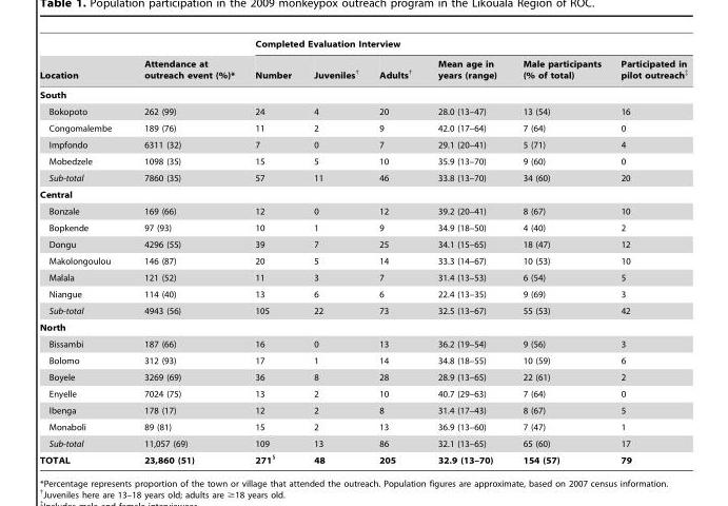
<table><thead><tr><td rowspan="2">Location</td><td rowspan="2">Attendance at outreach event (%)*</td><td colspan="6">Completed Evaluation Interview</td></tr><tr><td>Number</td><td>Juveniles†</td><td>Adults†</td><td>Mean age in years (range)</td><td>Male participants (% of total)</td><td>Participated in pilot outreach‡</td></tr></thead><tbody><tr><td colspan="8">South</td></tr><tr><td>Bokopoto</td><td>262 (99)</td><td>24</td><td>4</td><td>20</td><td>28.0 (13–47)</td><td>13 (54)</td><td>16</td></tr><tr><td>Congomalembe</td><td>189 (76)</td><td>11</td><td>2</td><td>9</td><td>42.0 (17–64)</td><td>7 (64)</td><td>0</td></tr><tr><td>Impfondo</td><td>6311 (32)</td><td>7</td><td>0</td><td>7</td><td>29.1 (20–41)</td><td>5 (71)</td><td>4</td></tr><tr><td>Mobedzele</td><td>1098 (35)</td><td>15</td><td>5</td><td>10</td><td>35.9 (13–70)</td><td>9 (60)</td><td>0</td></tr><tr><td>Sub-total</td><td>7860 (35)</td><td>57</td><td>11</td><td>46</td><td>33.8 (13–70)</td><td>34 (60)</td><td>20</td></tr><tr><td colspan="8">Central</td></tr><tr><td>Bonzale</td><td>169 (66)</td><td>12</td><td>0</td><td>12</td><td>39.2 (20–41)</td><td>8 (67)</td><td>10</td></tr><tr><td>Bopkende</td><td>97 (93)</td><td>10</td><td>1</td><td>9</td><td>34.9 (18–50)</td><td>4 (40)</td><td>2</td></tr><tr><td>Dongu</td><td>4296 (55)</td><td>39</td><td>7</td><td>25</td><td>34.1 (15–65)</td><td>18 (47)</td><td>12</td></tr><tr><td>Makolongoulou</td><td>146 (87)</td><td>20</td><td>5</td><td>14</td><td>33.3 (14–67)</td><td>10 (53)</td><td>10</td></tr><tr><td>Malala</td><td>121 (52)</td><td>11</td><td>3</td><td>7</td><td>31.4 (13–53)</td><td>6 (54)</td><td>5</td></tr><tr><td>Niangue</td><td>114 (40)</td><td>13</td><td>6</td><td>6</td><td>22.4 (13–35)</td><td>9 (69)</td><td>3</td></tr><tr><td>Sub-total</td><td>4943 (56)</td><td>105</td><td>22</td><td>73</td><td>32.5 (13–67)</td><td>55 (53)</td><td>42</td></tr><tr><td colspan="8">North</td></tr><tr><td>Bissambi</td><td>187 (66)</td><td>16</td><td>0</td><td>13</td><td>36.2 (19–54)</td><td>9 (56)</td><td>3</td></tr><tr><td>Bolomo</td><td>312 (93)</td><td>17</td><td>1</td><td>14</td><td>34.8 (18–55)</td><td>10 (59)</td><td>6</td></tr><tr><td>Boyele</td><td>3269 (69)</td><td>36</td><td>8</td><td>28</td><td>28.9 (13–65)</td><td>22 (61)</td><td>2</td></tr><tr><td>Enyelle</td><td>7024 (75)</td><td>13</td><td>2</td><td>10</td><td>40.7 (29–63)</td><td>7 (64)</td><td>0</td></tr><tr><td>Ibenga</td><td>178 (17)</td><td>12</td><td>2</td><td>8</td><td>31.4 (17–43)</td><td>8 (67)</td><td>5</td></tr><tr><td>Monaboli</td><td>89 (81)</td><td>15</td><td>2</td><td>13</td><td>36.9 (13–60)</td><td>7 (47)</td><td>1</td></tr><tr><td>Sub-total</td><td>11,057 (69)</td><td>109</td><td>13</td><td>86</td><td>32.1 (13–65)</td><td>65 (60)</td><td>17</td></tr><tr><td>TOTAL</td><td>23,860 (51)</td><td>271§</td><td>48</td><td>205</td><td>32.9 (13–70)</td><td>154 (57)</td><td>79</td></tr></tbody></table>